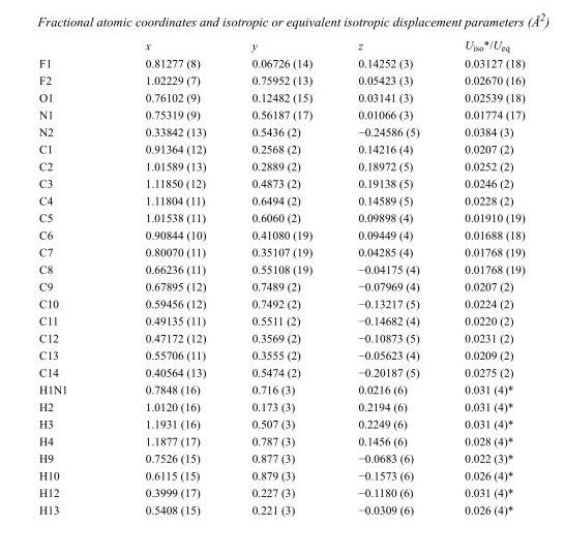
<table><thead><tr><td></td><td>x</td><td>y</td><td>z</td><td>U<sub>iso</sub>*/U<sub>eq</sub></td></tr></thead><tbody><tr><td>F1</td><td>0.81277 (8)</td><td>0.06726 (14)</td><td>0.14252 (3)</td><td>0.03127 (18)</td></tr><tr><td>F2</td><td>1.02229 (7)</td><td>0.75952 (13)</td><td>0.05423 (3)</td><td>0.02670 (16)</td></tr><tr><td>O1</td><td>0.76102 (9)</td><td>0.12482 (15)</td><td>0.03141 (3)</td><td>0.02539 (18)</td></tr><tr><td>N1</td><td>0.75319 (9)</td><td>0.56187 (17)</td><td>0.01066 (3)</td><td>0.01774 (17)</td></tr><tr><td>N2</td><td>0.33842 (13)</td><td>0.5436 (2)</td><td>−0.24586 (5)</td><td>0.0384 (3)</td></tr><tr><td>C1</td><td>0.91364 (12)</td><td>0.2568 (2)</td><td>0.14216 (4)</td><td>0.0207 (2)</td></tr><tr><td>C2</td><td>1.01589 (13)</td><td>0.2889 (2)</td><td>0.18972 (5)</td><td>0.0252 (2)</td></tr><tr><td>C3</td><td>1.11850 (12)</td><td>0.4873 (2)</td><td>0.19138 (5)</td><td>0.0246 (2)</td></tr><tr><td>C4</td><td>1.11804 (11)</td><td>0.6494 (2)</td><td>0.14589 (5)</td><td>0.0228 (2)</td></tr><tr><td>C5</td><td>1.01538 (11)</td><td>0.6060 (2)</td><td>0.09898 (4)</td><td>0.01910 (19)</td></tr><tr><td>C6</td><td>0.90844 (10)</td><td>0.41080 (19)</td><td>0.09449 (4)</td><td>0.01688 (18)</td></tr><tr><td>C7</td><td>0.80070 (11)</td><td>0.35107 (19)</td><td>0.04285 (4)</td><td>0.01768 (19)</td></tr><tr><td>C8</td><td>0.66236 (11)</td><td>0.55108 (19)</td><td>−0.04175 (4)</td><td>0.01768 (19)</td></tr><tr><td>C9</td><td>0.67895 (12)</td><td>0.7489 (2)</td><td>−0.07969 (4)</td><td>0.0207 (2)</td></tr><tr><td>C10</td><td>0.59456 (12)</td><td>0.7492 (2)</td><td>−0.13217 (5)</td><td>0.0224 (2)</td></tr><tr><td>C11</td><td>0.49135 (11)</td><td>0.5511 (2)</td><td>−0.14682 (4)</td><td>0.0220 (2)</td></tr><tr><td>C12</td><td>0.47172 (12)</td><td>0.3569 (2)</td><td>−0.10873 (5)</td><td>0.0231 (2)</td></tr><tr><td>C13</td><td>0.55706 (11)</td><td>0.3555 (2)</td><td>−0.05623 (4)</td><td>0.0209 (2)</td></tr><tr><td>C14</td><td>0.40564 (13)</td><td>0.5474 (2)</td><td>−0.20187 (5)</td><td>0.0275 (2)</td></tr><tr><td>H1N1</td><td>0.7848 (16)</td><td>0.716 (3)</td><td>0.0216 (6)</td><td>0.031 (4)*</td></tr><tr><td>H2</td><td>1.0120 (16)</td><td>0.173 (3)</td><td>0.2194 (6)</td><td>0.031 (4)*</td></tr><tr><td>H3</td><td>1.1931 (16)</td><td>0.507 (3)</td><td>0.2249 (6)</td><td>0.031 (4)*</td></tr><tr><td>H4</td><td>1.1877 (17)</td><td>0.787 (3)</td><td>0.1456 (6)</td><td>0.028 (4)*</td></tr><tr><td>H9</td><td>0.7526 (15)</td><td>0.877 (3)</td><td>−0.0683 (6)</td><td>0.022 (3)*</td></tr><tr><td>H10</td><td>0.6115 (15)</td><td>0.879 (3)</td><td>−0.1573 (6)</td><td>0.026 (4)*</td></tr><tr><td>H12</td><td>0.3999 (17)</td><td>0.227 (3)</td><td>−0.1180 (6)</td><td>0.031 (4)*</td></tr><tr><td>H13</td><td>0.5408 (15)</td><td>0.221 (3)</td><td>−0.0309 (6)</td><td>0.026 (4)*</td></tr></tbody></table>